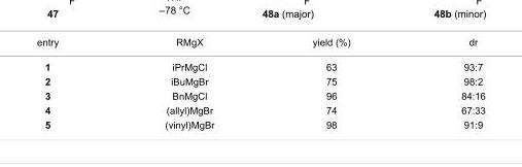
<table><tbody><tr><td>entry</td><td>RMgX</td><td>yield (%)</td><td>dr</td></tr><tr><td>1</td><td>iPrMgCl</td><td>63</td><td>93:7</td></tr><tr><td>2</td><td>iBuMgBr</td><td>75</td><td>98:2</td></tr><tr><td>3</td><td>BnMgCl</td><td>96</td><td>84:16</td></tr><tr><td>4</td><td>(allyl)MgBr</td><td>74</td><td>67:33</td></tr><tr><td>5</td><td>(vinyl)MgBr</td><td>98</td><td>91:9</td></tr></tbody></table>